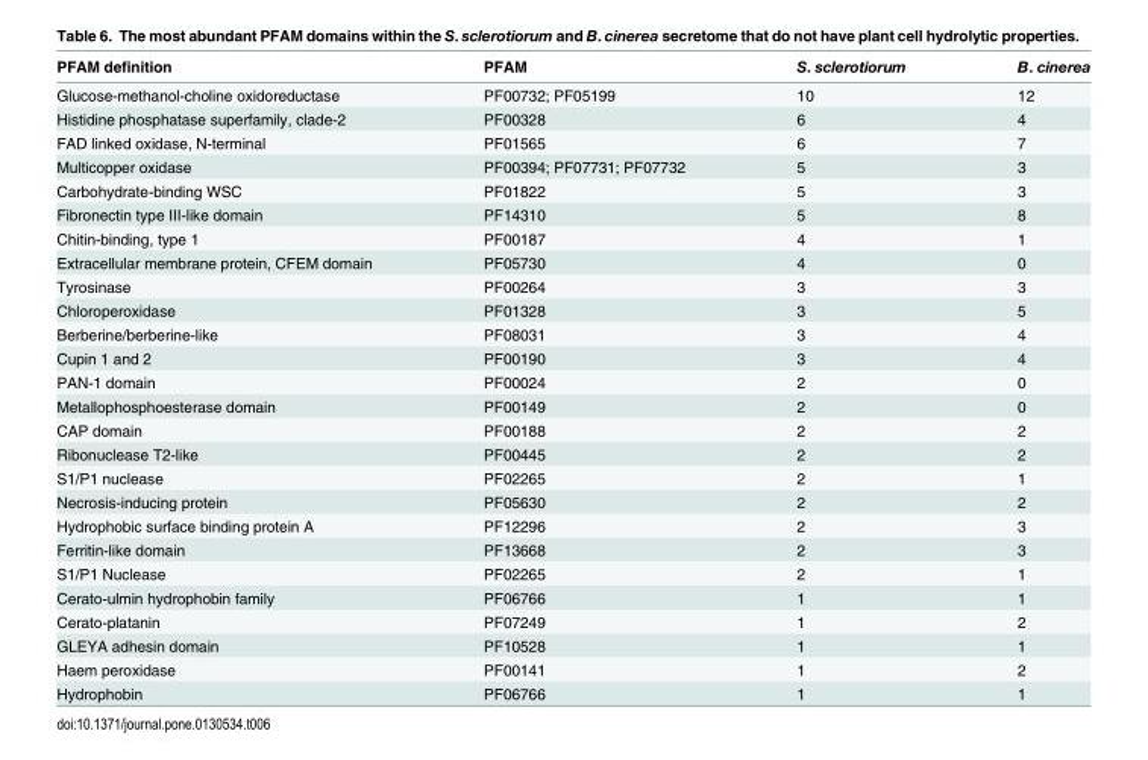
<table><thead><tr><td>PFAM definition</td><td>PFAM</td><td>S. sclerotiorum</td><td>B. cinerea</td></tr></thead><tbody><tr><td>Glucose-methanol-choline oxidoreductase</td><td>PF00732; PF05199</td><td>10</td><td>12</td></tr><tr><td>Histidine phosphatase superfamily, clade-2</td><td>PF00328</td><td>6</td><td>4</td></tr><tr><td>FAD linked oxidase, N-terminal</td><td>PF01565</td><td>6</td><td>7</td></tr><tr><td>Multicopper oxidase</td><td>PF00394; PF07731; PF07732</td><td>5</td><td>3</td></tr><tr><td>Carbohydrate-binding WSC</td><td>PF01822</td><td>5</td><td>3</td></tr><tr><td>Fibronectin type III-like domain</td><td>PF14310</td><td>5</td><td>8</td></tr><tr><td>Chitin-binding, type 1</td><td>PF00187</td><td>4</td><td>1</td></tr><tr><td>Extracellular membrane protein, CFEM domain</td><td>PF05730</td><td>4</td><td>0</td></tr><tr><td>Tyrosinase</td><td>PF00264</td><td>3</td><td>3</td></tr><tr><td>Chloroperoxidase</td><td>PF01328</td><td>3</td><td>5</td></tr><tr><td>Berberine/berberine-like</td><td>PF08031</td><td>3</td><td>4</td></tr><tr><td>Cupin 1 and 2</td><td>PF00190</td><td>3</td><td>4</td></tr><tr><td>PAN-1 domain</td><td>PF00024</td><td>2</td><td>0</td></tr><tr><td>Metallophosphoesterase domain</td><td>PF00149</td><td>2</td><td>0</td></tr><tr><td>CAP domain</td><td>PF00188</td><td>2</td><td>2</td></tr><tr><td>Ribonuclease T2-like</td><td>PF00445</td><td>2</td><td>2</td></tr><tr><td>S1/P1 nuclease</td><td>PF02265</td><td>2</td><td>1</td></tr><tr><td>Necrosis-inducing protein</td><td>PF05630</td><td>2</td><td>2</td></tr><tr><td>Hydrophobic surface binding protein A</td><td>PF12296</td><td>2</td><td>3</td></tr><tr><td>Ferritin-like domain</td><td>PF13668</td><td>2</td><td>3</td></tr><tr><td>S1/P1 Nuclease</td><td>PF02265</td><td>2</td><td>1</td></tr><tr><td>Cerato-ulmin hydrophobin family</td><td>PF06766</td><td>1</td><td>1</td></tr><tr><td>Cerato-platanin</td><td>PF07249</td><td>1</td><td>2</td></tr><tr><td>GLEYA adhesin domain</td><td>PF10528</td><td>1</td><td>1</td></tr><tr><td>Haem peroxidase</td><td>PF00141</td><td>1</td><td>2</td></tr><tr><td>Hydrophobin</td><td>PF06766</td><td>1</td><td>1</td></tr></tbody></table>